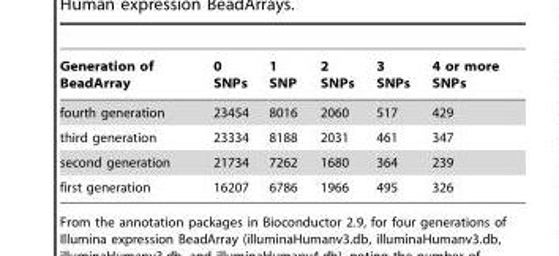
<table><thead><tr><td>Generation of BeadArray</td><td>0 SNPs</td><td>1 SNP</td><td>2 SNPs</td><td>3 SNPs</td><td>4 or more SNPs</td></tr></thead><tbody><tr><td>fourth generation</td><td>23454</td><td>8016</td><td>2060</td><td>517</td><td>429</td></tr><tr><td>third generation</td><td>23334</td><td>8188</td><td>2031</td><td>461</td><td>347</td></tr><tr><td>second generation</td><td>21734</td><td>7262</td><td>1680</td><td>364</td><td>239</td></tr><tr><td>first generation</td><td>16207</td><td>6786</td><td>1966</td><td>495</td><td>326</td></tr></tbody></table>